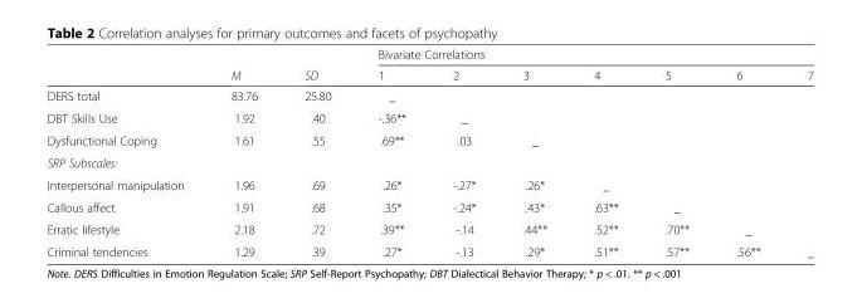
<table><thead><tr><td rowspan="2"></td><td rowspan="2">M</td><td rowspan="2">SD</td><td colspan="7">Bivariate Correlations</td></tr><tr><td>1</td><td>2</td><td>3</td><td>4</td><td>5</td><td>6</td><td>7</td></tr></thead><tbody><tr><td>DERS total</td><td>83.76</td><td>25.80</td><td>_</td><td></td><td></td><td></td><td></td><td></td><td></td></tr><tr><td>DBT Skills Use</td><td>1.92</td><td>.40</td><td>-.36**</td><td>_</td><td></td><td></td><td></td><td></td><td></td></tr><tr><td>Dysfunctional Coping</td><td>1.61</td><td>.55</td><td>.69**</td><td>.03</td><td>_</td><td></td><td></td><td></td><td></td></tr><tr><td colspan="10">SRP Subscales:</td></tr><tr><td>Interpersonal manipulation</td><td>1.96</td><td>.69</td><td>.26*</td><td>-.27*</td><td>.26*</td><td>_</td><td></td><td></td><td></td></tr><tr><td>Callous affect</td><td>1.91</td><td>.68</td><td>.35*</td><td>-.24*</td><td>.43*</td><td>.63**</td><td>_</td><td></td><td></td></tr><tr><td>Erratic lifestyle</td><td>2.18</td><td>.72</td><td>.39**</td><td>-.14</td><td>.44**</td><td>.52**</td><td>.70**</td><td>_</td><td></td></tr><tr><td>Criminal tendencies</td><td>1.29</td><td>.39</td><td>.27*</td><td>-.13</td><td>.29*</td><td>.51**</td><td>.57**</td><td>.56**</td><td>_</td></tr></tbody></table>